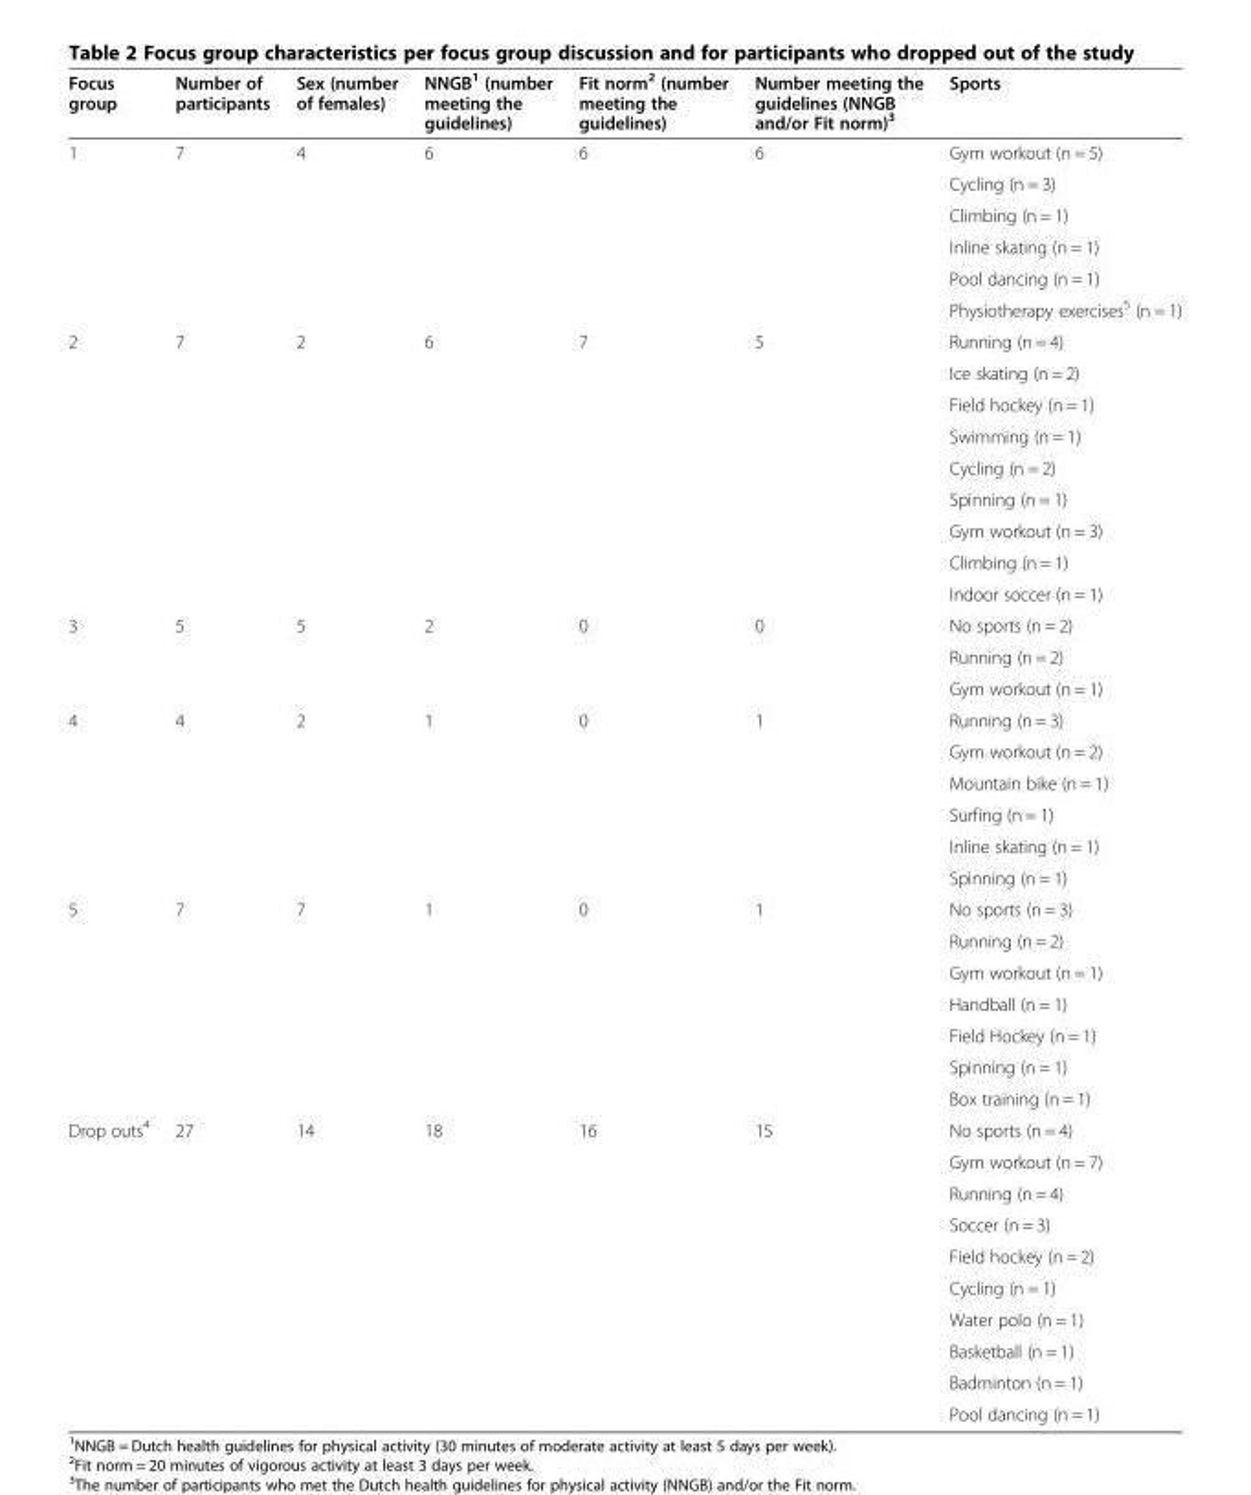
<table><thead><tr><td>Focus group</td><td>Number of participants</td><td>Sex (number of females)</td><td>NNGB<sup>1</sup> (number meeting the guidelines)</td><td>Fit norm<sup>2</sup> (number meeting the guidelines)</td><td>Number meeting the guidelines (NNGB and/or Fit norm)<sup>3</sup></td><td>Sports</td></tr></thead><tbody><tr><td rowspan="6">1</td><td rowspan="6">7</td><td rowspan="6">4</td><td rowspan="6">6</td><td rowspan="6">6</td><td rowspan="6">6</td><td>Gym workout (n = 5)</td></tr><tr><td>Cycling (n = 3)</td></tr><tr><td>Climbing (n = 1)</td></tr><tr><td>Inline skating (n = 1)</td></tr><tr><td>Pool dancing (n = 1)</td></tr><tr><td>Physiotherapy exercises<sup>5</sup> (n = 1)</td></tr><tr><td rowspan="9">2</td><td rowspan="9">7</td><td rowspan="9">2</td><td rowspan="9">6</td><td rowspan="9">7</td><td rowspan="9">5</td><td>Running (n = 4)</td></tr><tr><td>Ice skating (n = 2)</td></tr><tr><td>Field hockey (n = 1)</td></tr><tr><td>Swimming (n = 1)</td></tr><tr><td>Cycling (n = 2)</td></tr><tr><td>Spinning (n = 1)</td></tr><tr><td>Gym workout (n = 3)</td></tr><tr><td>Climbing (n = 1)</td></tr><tr><td>Indoor soccer (n = 1)</td></tr><tr><td rowspan="3">3</td><td rowspan="3">5</td><td rowspan="3">5</td><td rowspan="3">2</td><td rowspan="3">0</td><td rowspan="3">0</td><td>No sports (n = 2)</td></tr><tr><td>Running (n = 2)</td></tr><tr><td>Gym workout (n = 1)</td></tr><tr><td rowspan="6">4</td><td rowspan="6">4</td><td rowspan="6">2</td><td rowspan="6">1</td><td rowspan="6">0</td><td rowspan="6">1</td><td>Running (n = 3)</td></tr><tr><td>Gym workout (n = 2)</td></tr><tr><td>Mountain bike (n = 1)</td></tr><tr><td>Surfing (n = 1)</td></tr><tr><td>Inline skating (n = 1)</td></tr><tr><td>Spinning (n = 1)</td></tr><tr><td rowspan="7">5</td><td rowspan="7">7</td><td rowspan="7">7</td><td rowspan="7">1</td><td rowspan="7">0</td><td rowspan="7">1</td><td>No sports (n = 3)</td></tr><tr><td>Running (n = 2)</td></tr><tr><td>Gym workout (n = 1)</td></tr><tr><td>Handball (n = 1)</td></tr><tr><td>Field Hockey (n = 1)</td></tr><tr><td>Spinning (n = 1)</td></tr><tr><td>Box training (n = 1)</td></tr><tr><td rowspan="10">Drop outs<sup>4</sup></td><td rowspan="10">27</td><td rowspan="10">14</td><td rowspan="10">18</td><td rowspan="10">16</td><td rowspan="10">15</td><td>No sports (n = 4)</td></tr><tr><td>Gym workout (n = 7)</td></tr><tr><td>Running (n = 4)</td></tr><tr><td>Soccer (n = 3)</td></tr><tr><td>Field hockey (n = 2)</td></tr><tr><td>Cycling (n = 1)</td></tr><tr><td>Water polo (n = 1)</td></tr><tr><td>Basketball (n = 1)</td></tr><tr><td>Badminton (n = 1)</td></tr><tr><td>Pool dancing (n = 1)</td></tr></tbody></table>